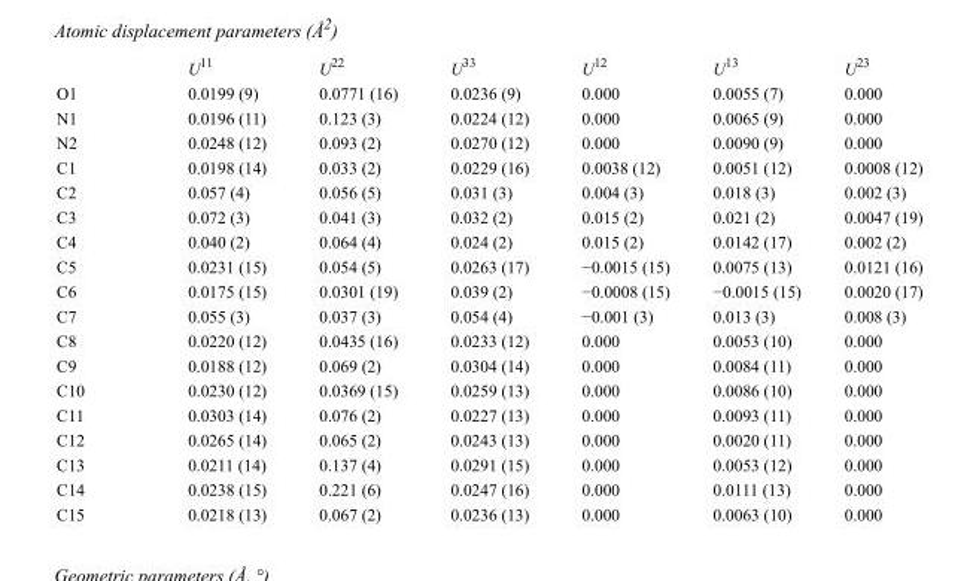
<table><thead><tr><td></td><td>U<sup>11</sup></td><td>U<sup>22</sup></td><td>U<sup>33</sup></td><td>U<sup>12</sup></td><td>U<sup>13</sup></td><td>U<sup>23</sup></td></tr></thead><tbody><tr><td>O1</td><td>0.0199 (9)</td><td>0.0771 (16)</td><td>0.0236 (9)</td><td>0.000</td><td>0.0055 (7)</td><td>0.000</td></tr><tr><td>N1</td><td>0.0196 (11)</td><td>0.123 (3)</td><td>0.0224 (12)</td><td>0.000</td><td>0.0065 (9)</td><td>0.000</td></tr><tr><td>N2</td><td>0.0248 (12)</td><td>0.093 (2)</td><td>0.0270 (12)</td><td>0.000</td><td>0.0090 (9)</td><td>0.000</td></tr><tr><td>C1</td><td>0.0198 (14)</td><td>0.033 (2)</td><td>0.0229 (16)</td><td>0.0038 (12)</td><td>0.0051 (12)</td><td>0.0008 (12)</td></tr><tr><td>C2</td><td>0.057 (4)</td><td>0.056 (5)</td><td>0.031 (3)</td><td>0.004 (3)</td><td>0.018 (3)</td><td>0.002 (3)</td></tr><tr><td>C3</td><td>0.072 (3)</td><td>0.041 (3)</td><td>0.032 (2)</td><td>0.015 (2)</td><td>0.021 (2)</td><td>0.0047 (19)</td></tr><tr><td>C4</td><td>0.040 (2)</td><td>0.064 (4)</td><td>0.024 (2)</td><td>0.015 (2)</td><td>0.0142 (17)</td><td>0.002 (2)</td></tr><tr><td>C5</td><td>0.0231 (15)</td><td>0.054 (5)</td><td>0.0263 (17)</td><td>−0.0015 (15)</td><td>0.0075 (13)</td><td>0.0121 (16)</td></tr><tr><td>C6</td><td>0.0175 (15)</td><td>0.0301 (19)</td><td>0.039 (2)</td><td>−0.0008 (15)</td><td>−0.0015 (15)</td><td>0.0020 (17)</td></tr><tr><td>C7</td><td>0.055 (3)</td><td>0.037 (3)</td><td>0.054 (4)</td><td>−0.001 (3)</td><td>0.013 (3)</td><td>0.008 (3)</td></tr><tr><td>C8</td><td>0.0220 (12)</td><td>0.0435 (16)</td><td>0.0233 (12)</td><td>0.000</td><td>0.0053 (10)</td><td>0.000</td></tr><tr><td>C9</td><td>0.0188 (12)</td><td>0.069 (2)</td><td>0.0304 (14)</td><td>0.000</td><td>0.0084 (11)</td><td>0.000</td></tr><tr><td>C10</td><td>0.0230 (12)</td><td>0.0369 (15)</td><td>0.0259 (13)</td><td>0.000</td><td>0.0086 (10)</td><td>0.000</td></tr><tr><td>C11</td><td>0.0303 (14)</td><td>0.076 (2)</td><td>0.0227 (13)</td><td>0.000</td><td>0.0093 (11)</td><td>0.000</td></tr><tr><td>C12</td><td>0.0265 (14)</td><td>0.065 (2)</td><td>0.0243 (13)</td><td>0.000</td><td>0.0020 (11)</td><td>0.000</td></tr><tr><td>C13</td><td>0.0211 (14)</td><td>0.137 (4)</td><td>0.0291 (15)</td><td>0.000</td><td>0.0053 (12)</td><td>0.000</td></tr><tr><td>C14</td><td>0.0238 (15)</td><td>0.221 (6)</td><td>0.0247 (16)</td><td>0.000</td><td>0.0111 (13)</td><td>0.000</td></tr><tr><td>C15</td><td>0.0218 (13)</td><td>0.067 (2)</td><td>0.0236 (13)</td><td>0.000</td><td>0.0063 (10)</td><td>0.000</td></tr></tbody></table>